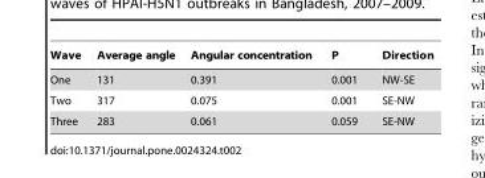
<table><thead><tr><td>Wave</td><td>Average angle</td><td>Angular concentration</td><td>P</td><td>Direction</td></tr></thead><tbody><tr><td>One</td><td>131</td><td>0.391</td><td>0.001</td><td>NW-SE</td></tr><tr><td>Two</td><td>317</td><td>0.075</td><td>0.001</td><td>SE-NW</td></tr><tr><td>Three</td><td>283</td><td>0.061</td><td>0.059</td><td>SE-NW</td></tr></tbody></table>